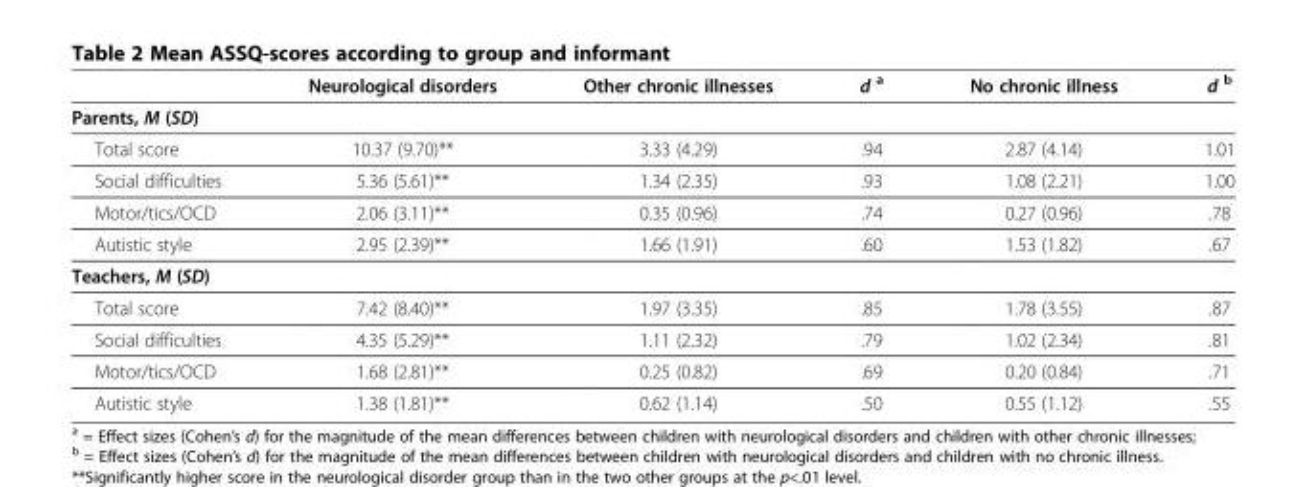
<table><thead><tr><td></td><td>Neurological disorders</td><td>Other chronic illnesses</td><td>d <sup>a</sup></td><td>No chronic illness</td><td>d <sup>b</sup></td></tr></thead><tbody><tr><td colspan="6">Parents, M (SD)</td></tr><tr><td>Total score</td><td>10.37 (9.70)**</td><td>3.33 (4.29)</td><td>.94</td><td>2.87 (4.14)</td><td>1.01</td></tr><tr><td>Social difficulties</td><td>5.36 (5.61)**</td><td>1.34 (2.35)</td><td>.93</td><td>1.08 (2.21)</td><td>1.00</td></tr><tr><td>Motor/tics/OCD</td><td>2.06 (3.11)**</td><td>0.35 (0.96)</td><td>.74</td><td>0.27 (0.96)</td><td>.78</td></tr><tr><td>Autistic style</td><td>2.95 (2.39)**</td><td>1.66 (1.91)</td><td>.60</td><td>1.53 (1.82)</td><td>.67</td></tr><tr><td colspan="6">Teachers, M (SD)</td></tr><tr><td>Total score</td><td>7.42 (8.40)**</td><td>1.97 (3.35)</td><td>.85</td><td>1.78 (3.55)</td><td>.87</td></tr><tr><td>Social difficulties</td><td>4.35 (5.29)**</td><td>1.11 (2.32)</td><td>.79</td><td>1.02 (2.34)</td><td>.81</td></tr><tr><td>Motor/tics/OCD</td><td>1.68 (2.81)**</td><td>0.25 (0.82)</td><td>.69</td><td>0.20 (0.84)</td><td>.71</td></tr><tr><td>Autistic style</td><td>1.38 (1.81)**</td><td>0.62 (1.14)</td><td>.50</td><td>0.55 (1.12)</td><td>.55</td></tr></tbody></table>